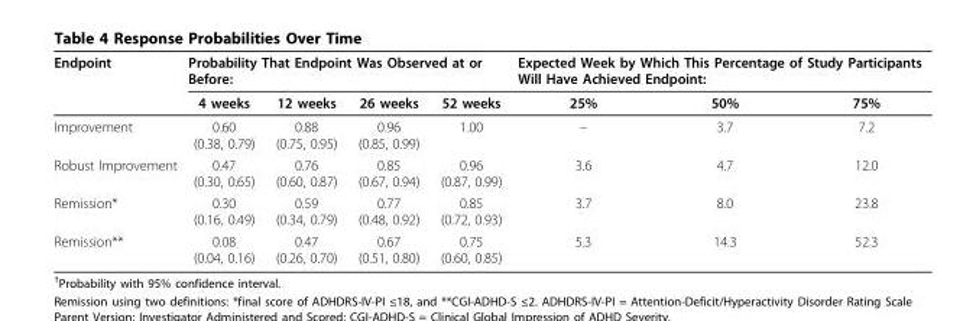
<table><thead><tr><td rowspan="2">Endpoint</td><td colspan="4">Probability That Endpoint Was Observed at or Before:</td><td colspan="3">Expected Week by Which This Percentage of Study Participants Will Have Achieved Endpoint:</td></tr><tr><td>4 weeks</td><td>12 weeks</td><td>26 weeks</td><td>52 weeks</td><td>25%</td><td>50%</td><td>75%</td></tr></thead><tbody><tr><td>Improvement</td><td>0.60 (0.38, 0.79)</td><td>0.88 (0.75, 0.95)</td><td>0.96 (0.85, 0.99)</td><td>1.00</td><td>–</td><td>3.7</td><td>7.2</td></tr><tr><td>Robust Improvement</td><td>0.47 (0.30, 0.65)</td><td>0.76 (0.60, 0.87)</td><td>0.85 (0.67, 0.94)</td><td>0.96 (0.87, 0.99)</td><td>3.6</td><td>4.7</td><td>12.0</td></tr><tr><td>Remission*</td><td>0.30 (0.16, 0.49)</td><td>0.59 (0.34, 0.79)</td><td>0.77 (0.48, 0.92)</td><td>0.85 (0.72, 0.93)</td><td>3.7</td><td>8.0</td><td>23.8</td></tr><tr><td>Remission**</td><td>0.08 (0.04, 0.16)</td><td>0.47 (0.26, 0.70)</td><td>0.67 (0.51, 0.80)</td><td>0.75 (0.60, 0.85)</td><td>5.3</td><td>14.3</td><td>52.3</td></tr></tbody></table>